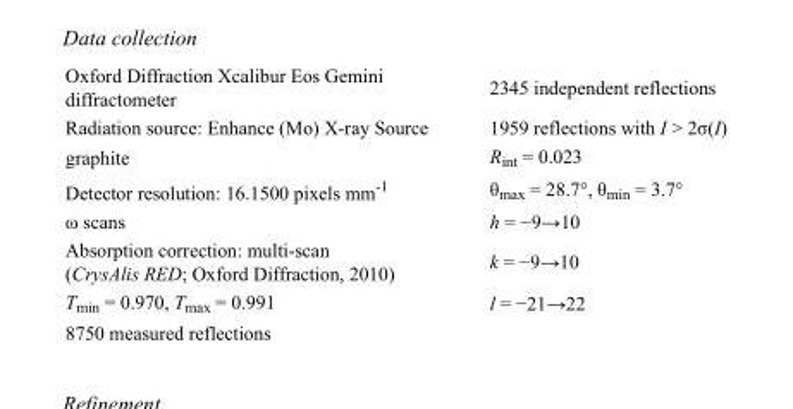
<table><tbody><tr><td>Oxford Diffraction Xcalibur Eos Gemini diffractometer</td><td>2345 independent reflections</td></tr><tr><td>Radiation source: Enhance (Mo) X-ray Source</td><td>1959 reflections with I &gt; 2σ(I)</td></tr><tr><td>graphite</td><td>R<sub>int</sub> = 0.023</td></tr><tr><td>Detector resolution: 16.1500 pixels mm<sup>-1</sup></td><td>θ<sub>max</sub> = 28.7°, θ<sub>min</sub> = 3.7°</td></tr><tr><td>ω scans</td><td>h = −9→10</td></tr><tr><td>Absorption correction: multi-scan (CrysAlis RED; Oxford Diffraction, 2010)</td><td>k = −9→10</td></tr><tr><td>T<sub>min</sub> = 0.970, T<sub>max</sub> = 0.991</td><td>l = −21→22</td></tr><tr><td>8750 measured reflections</td><td></td></tr></tbody></table>